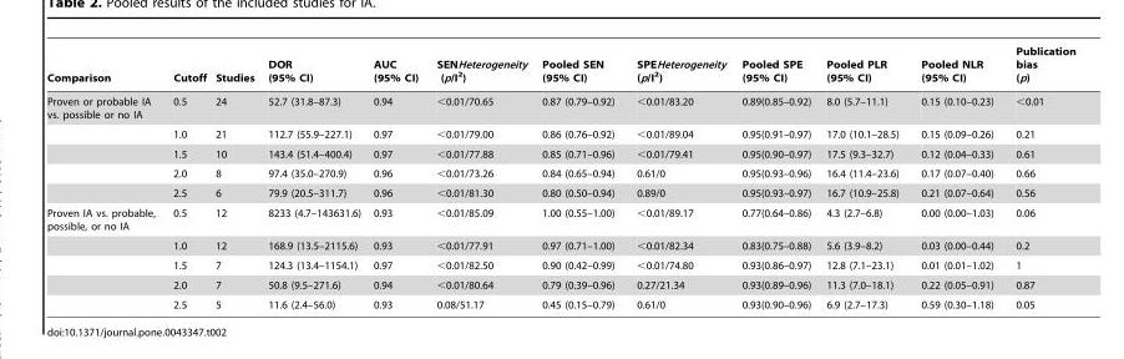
<table><thead><tr><td>Comparison</td><td>Cutoff</td><td>Studies</td><td>DOR (95% CI)</td><td>AUC (95% CI)</td><td>SENHeterogeneity (p/I<sup>2</sup>)</td><td>Pooled SEN (95% CI)</td><td>SPEHeterogeneity (p/I<sup>2</sup>)</td><td>Pooled SPE (95% CI)</td><td>Pooled PLR (95% CI)</td><td>Pooled NLR (95% CI)</td><td>Publication bias (p)</td></tr></thead><tbody><tr><td rowspan="5">Proven or probable IA vs. possible or no IA</td><td>0.5</td><td>24</td><td>52.7 (31.8–87.3)</td><td>0.94</td><td>&lt;0.01/70.65</td><td>0.87 (0.79–0.92)</td><td>&lt;0.01/83.20</td><td>0.89(0.85–0.92)</td><td>8.0 (5.7–11.1)</td><td>0.15 (0.10–0.23)</td><td>&lt;0.01</td></tr><tr><td>1.0</td><td>21</td><td>112.7 (55.9–227.1)</td><td>0.97</td><td>&lt;0.01/79.00</td><td>0.86 (0.76–0.92)</td><td>&lt;0.01/89.04</td><td>0.95(0.91–0.97)</td><td>17.0 (10.1–28.5)</td><td>0.15 (0.09–0.26)</td><td>0.21</td></tr><tr><td>1.5</td><td>10</td><td>143.4 (51.4–400.4)</td><td>0.97</td><td>&lt;0.01/77.88</td><td>0.85 (0.71–0.96)</td><td>&lt;0.01/79.41</td><td>0.95(0.90–0.97)</td><td>17.5 (9.3–32.7)</td><td>0.12 (0.04–0.33)</td><td>0.61</td></tr><tr><td>2.0</td><td>8</td><td>97.4 (35.0–270.9)</td><td>0.96</td><td>&lt;0.01/73.26</td><td>0.84 (0.65–0.94)</td><td>0.61/0</td><td>0.95(0.93–0.96)</td><td>16.4 (11.4–23.6)</td><td>0.17 (0.07–0.40)</td><td>0.66</td></tr><tr><td>2.5</td><td>6</td><td>79.9 (20.5–311.7)</td><td>0.96</td><td>&lt;0.01/81.30</td><td>0.80 (0.50–0.94)</td><td>0.89/0</td><td>0.95(0.93–0.97)</td><td>16.7 (10.9–25.8)</td><td>0.21 (0.07–0.64)</td><td>0.56</td></tr><tr><td rowspan="5">Proven IA vs. probable, possible, or no IA</td><td>0.5</td><td>12</td><td>8233 (4.7–143631.6)</td><td>0.93</td><td>&lt;0.01/85.09</td><td>1.00 (0.55–1.00)</td><td>&lt;0.01/89.17</td><td>0.77(0.64–0.86)</td><td>4.3 (2.7–6.8)</td><td>0.00 (0.00–1.03)</td><td>0.06</td></tr><tr><td>1.0</td><td>12</td><td>168.9 (13.5–2115.6)</td><td>0.93</td><td>&lt;0.01/77.91</td><td>0.97 (0.71–1.00)</td><td>&lt;0.01/82.34</td><td>0.83(0.75–0.88)</td><td>5.6 (3.9–8.2)</td><td>0.03 (0.00–0.44)</td><td>0.2</td></tr><tr><td>1.5</td><td>7</td><td>124.3 (13.4–1154.1)</td><td>0.97</td><td>&lt;0.01/82.50</td><td>0.90 (0.42–0.99)</td><td>&lt;0.01/74.80</td><td>0.93(0.86–0.97)</td><td>12.8 (7.1–23.1)</td><td>0.01 (0.01–1.02)</td><td>1</td></tr><tr><td>2.0</td><td>7</td><td>50.8 (9.5–271.6)</td><td>0.94</td><td>&lt;0.01/80.64</td><td>0.79 (0.39–0.96)</td><td>0.27/21.34</td><td>0.93(0.89–0.96)</td><td>11.3 (7.0–18.1)</td><td>0.22 (0.05–0.91)</td><td>0.87</td></tr><tr><td>2.5</td><td>5</td><td>11.6 (2.4–56.0)</td><td>0.93</td><td>0.08/51.17</td><td>0.45 (0.15–0.79)</td><td>0.61/0</td><td>0.93(0.90–0.96)</td><td>6.9 (2.7–17.3)</td><td>0.59 (0.30–1.18)</td><td>0.05</td></tr></tbody></table>